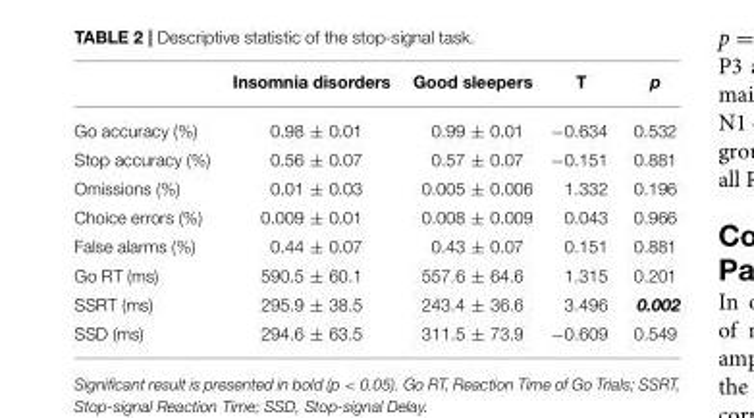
<table><thead><tr><td></td><td>Insomnia disorders</td><td>Good sleepers</td><td>T</td><td>p</td></tr></thead><tbody><tr><td>Go accuracy (%)</td><td>0.98 ± 0.01</td><td>0.99 ± 0.01</td><td>−0.634</td><td>0.532</td></tr><tr><td>Stop accuracy (%)</td><td>0.56 ± 0.07</td><td>0.57 ± 0.07</td><td>−0.151</td><td>0.881</td></tr><tr><td>Omissions (%)</td><td>0.01 ± 0.03</td><td>0.005 ± 0.006</td><td>1.332</td><td>0.196</td></tr><tr><td>Choice errors (%)</td><td>0.009 ± 0.01</td><td>0.008 ± 0.009</td><td>0.043</td><td>0.966</td></tr><tr><td>False alarms (%)</td><td>0.44 ± 0.07</td><td>0.43 ± 0.07</td><td>0.151</td><td>0.881</td></tr><tr><td>Go RT (ms)</td><td>590.5 ± 60.1</td><td>557.6 ± 64.6</td><td>1.315</td><td>0.201</td></tr><tr><td>SSRT (ms)</td><td>295.9 ± 38.5</td><td>243.4 ± 36.6</td><td>3.496</td><td>0.002</td></tr><tr><td>SSD (ms)</td><td>294.6 ± 63.5</td><td>311.5 ± 73.9</td><td>−0.609</td><td>0.549</td></tr></tbody></table>